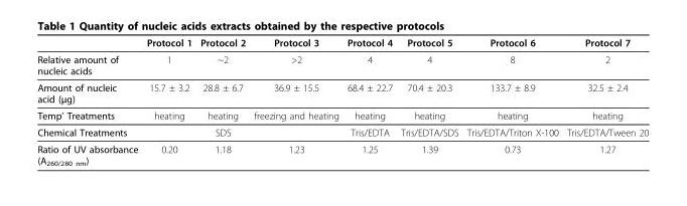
<table><thead><tr><td></td><td>Protocol 1</td><td>Protocol 2</td><td>Protocol 3</td><td>Protocol 4</td><td>Protocol 5</td><td>Protocol 6</td><td>Protocol 7</td></tr></thead><tbody><tr><td>Relative amount of nucleic acids</td><td>1</td><td>~2</td><td>&gt;2</td><td>4</td><td>4</td><td>8</td><td>2</td></tr><tr><td>Amount of nucleic acid (μg)</td><td>15.7 ± 3.2</td><td>28.8 ± 6.7</td><td>36.9 ± 15.5</td><td>68.4 ± 22.7</td><td>70.4 ± 20.3</td><td>133.7 ± 8.9</td><td>32.5 ± 2.4</td></tr><tr><td>Temp’ Treatments</td><td>heating</td><td>heating</td><td>freezing and heating</td><td>heating</td><td>heating</td><td>heating</td><td>heating</td></tr><tr><td>Chemical Treatments</td><td></td><td>SDS</td><td></td><td>Tris/EDTA</td><td>Tris/EDTA/SDS</td><td>Tris/EDTA/Triton X-100</td><td>Tris/EDTA/Tween 20</td></tr><tr><td>Ratio of UV absorbance (A<sub>260/280 nm</sub>)</td><td>0.20</td><td>1.18</td><td>1.23</td><td>1.25</td><td>1.39</td><td>0.73</td><td>1.27</td></tr></tbody></table>